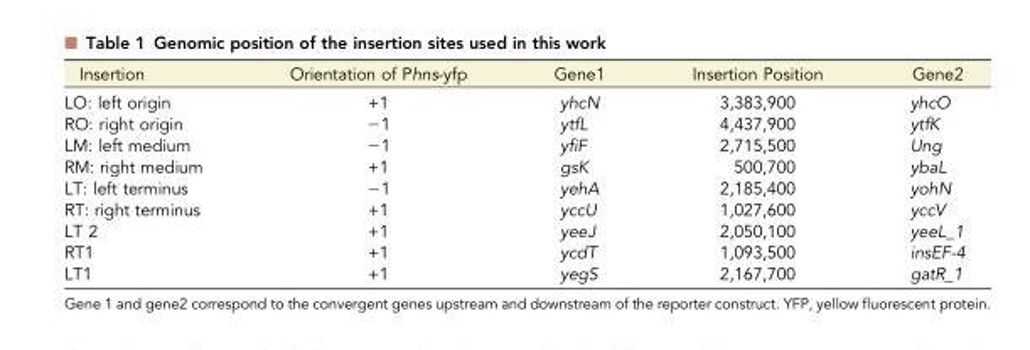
<table><thead><tr><td>Insertion</td><td>Orientation of Phns-yfp</td><td>Gene1</td><td>Insertion Position</td><td>Gene2</td></tr></thead><tbody><tr><td>LO: left origin</td><td>+1</td><td>yhcN</td><td>3,383,900</td><td>yhcO</td></tr><tr><td>RO: right origin</td><td>−1</td><td>ytfL</td><td>4,437,900</td><td>ytfK</td></tr><tr><td>LM: left medium</td><td>−1</td><td>yfiF</td><td>2,715,500</td><td>Ung</td></tr><tr><td>RM: right medium</td><td>+1</td><td>gsK</td><td>500,700</td><td>ybaL</td></tr><tr><td>LT: left terminus</td><td>−1</td><td>yehA</td><td>2,185,400</td><td>yohN</td></tr><tr><td>RT: right terminus</td><td>+1</td><td>yccU</td><td>1,027,600</td><td>yccV</td></tr><tr><td>LT 2</td><td>+1</td><td>yeeJ</td><td>2,050,100</td><td>yeeL_1</td></tr><tr><td>RT1</td><td>+1</td><td>ycdT</td><td>1,093,500</td><td>insEF-4</td></tr><tr><td>LT1</td><td>+1</td><td>yegS</td><td>2,167,700</td><td>gatR_1</td></tr></tbody></table>